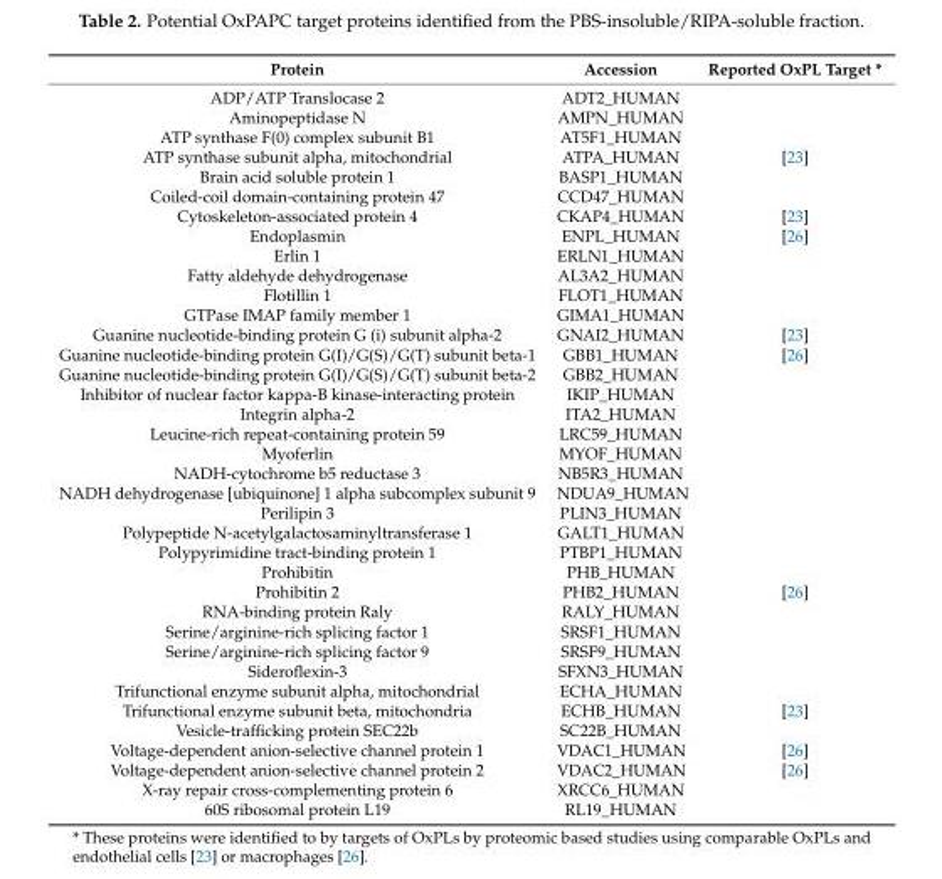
<table><thead><tr><td>Protein</td><td>Accession</td><td>Reported OxPL Target *</td></tr></thead><tbody><tr><td>ADP/ATP Translocase 2</td><td>ADT2_HUMAN</td><td></td></tr><tr><td>Aminopeptidase N</td><td>AMPN_HUMAN</td><td></td></tr><tr><td>ATP synthase F(0) complex subunit B1</td><td>AT5F1_HUMAN</td><td></td></tr><tr><td>ATP synthase subunit alpha, mitochondrial</td><td>ATPA_HUMAN</td><td>[23]</td></tr><tr><td>Brain acid soluble protein 1</td><td>BASP1_HUMAN</td><td></td></tr><tr><td>Coiled-coil domain-containing protein 47</td><td>CCD47_HUMAN</td><td></td></tr><tr><td>Cytoskeleton-associated protein 4</td><td>CKAP4_HUMAN</td><td>[23]</td></tr><tr><td>Endoplasmin</td><td>ENPL_HUMAN</td><td>[26]</td></tr><tr><td>Erlin 1</td><td>ERLN1_HUMAN</td><td></td></tr><tr><td>Fatty aldehyde dehydrogenase</td><td>AL3A2_HUMAN</td><td></td></tr><tr><td>Flotillin 1</td><td>FLOT1_HUMAN</td><td></td></tr><tr><td>GTPase IMAP family member 1</td><td>GIMA1_HUMAN</td><td></td></tr><tr><td>Guanine nucleotide-binding protein G (i) subunit alpha-2</td><td>GNAI2_HUMAN</td><td>[23]</td></tr><tr><td>Guanine nucleotide-binding protein G(I)/G(S)/G(T) subunit beta-1</td><td>GBB1_HUMAN</td><td>[26]</td></tr><tr><td>Guanine nucleotide-binding protein G(I)/G(S)/G(T) subunit beta-2</td><td>GBB2_HUMAN</td><td></td></tr><tr><td>Inhibitor of nuclear factor kappa-B kinase-interacting protein</td><td>IKIP_HUMAN</td><td></td></tr><tr><td>Integrin alpha-2</td><td>ITA2_HUMAN</td><td></td></tr><tr><td>Leucine-rich repeat-containing protein 59</td><td>LRC59_HUMAN</td><td></td></tr><tr><td>Myoferlin</td><td>MYOF_HUMAN</td><td></td></tr><tr><td>NADH-cytochrome b5 reductase 3</td><td>NB5R3_HUMAN</td><td></td></tr><tr><td>NADH dehydrogenase [ubiquinone] 1 alpha subcomplex subunit 9</td><td>NDUA9_HUMAN</td><td></td></tr><tr><td>Perilipin 3</td><td>PLIN3_HUMAN</td><td></td></tr><tr><td>Polypeptide N-acetylgalactosaminyltransferase 1</td><td>GALT1_HUMAN</td><td></td></tr><tr><td>Polypyrimidine tract-binding protein 1</td><td>PTBP1_HUMAN</td><td></td></tr><tr><td>Prohibitin</td><td>PHB_HUMAN</td><td></td></tr><tr><td>Prohibitin 2</td><td>PHB2_HUMAN</td><td>[26]</td></tr><tr><td>RNA-binding protein Raly</td><td>RALY_HUMAN</td><td></td></tr><tr><td>Serine/arginine-rich splicing factor 1</td><td>SRSF1_HUMAN</td><td></td></tr><tr><td>Serine/arginine-rich splicing factor 9</td><td>SRSF9_HUMAN</td><td></td></tr><tr><td>Sideroflexin-3</td><td>SFXN3_HUMAN</td><td></td></tr><tr><td>Trifunctional enzyme subunit alpha, mitochondrial</td><td>ECHA_HUMAN</td><td></td></tr><tr><td>Trifunctional enzyme subunit beta, mitochondria</td><td>ECHB_HUMAN</td><td>[23]</td></tr><tr><td>Vesicle-trafficking protein SEC22b</td><td>SC22B_HUMAN</td><td></td></tr><tr><td>Voltage-dependent anion-selective channel protein 1</td><td>VDAC1_HUMAN</td><td>[26]</td></tr><tr><td>Voltage-dependent anion-selective channel protein 2</td><td>VDAC2_HUMAN</td><td>[26]</td></tr><tr><td>X-ray repair cross-complementing protein 6</td><td>XRCC6_HUMAN</td><td></td></tr><tr><td>60S ribosomal protein L19</td><td>RL19_HUMAN</td><td></td></tr></tbody></table>